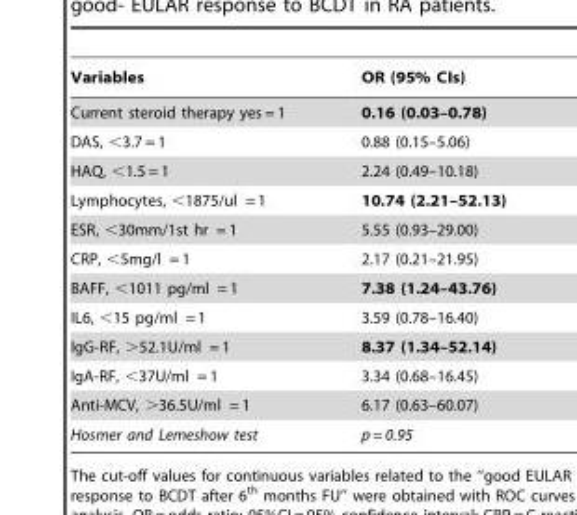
<table><thead><tr><td>Variables</td><td>OR (95% CIs)</td></tr></thead><tbody><tr><td>Current steroid therapy yes = 1</td><td>0.16 (0.03–0.78)</td></tr><tr><td>DAS, &lt;3.7 = 1</td><td>0.88 (0.15–5.06)</td></tr><tr><td>HAQ, &lt;1.5 = 1</td><td>2.24 (0.49–10.18)</td></tr><tr><td>Lymphocytes, &lt;1875/ul = 1</td><td>10.74 (2.21–52.13)</td></tr><tr><td>ESR, &lt;30mm/1st hr = 1</td><td>5.55 (0.93–29.00)</td></tr><tr><td>CRP, &lt;5mg/l = 1</td><td>2.17 (0.21–21.95)</td></tr><tr><td>BAFF, &lt;1011 pg/ml = 1</td><td>7.38 (1.24–43.76)</td></tr><tr><td>IL6, &lt;15 pg/ml = 1</td><td>3.59 (0.78–16.40)</td></tr><tr><td>IgG-RF, &gt;52.1U/ml = 1</td><td>8.37 (1.34–52.14)</td></tr><tr><td>IgA-RF, &lt;37U/ml = 1</td><td>3.34 (0.68–16.45)</td></tr><tr><td>Anti-MCV, &gt;36.5U/ml = 1</td><td>6.17 (0.63–60.07)</td></tr><tr><td>Hosmer and Lemeshow test</td><td>p = 0.95</td></tr></tbody></table>